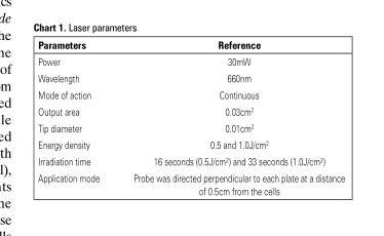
<table><thead><tr><td>Parameters</td><td>Reference</td></tr></thead><tbody><tr><td>Power</td><td>30mW</td></tr><tr><td>Wavelength</td><td>660nm</td></tr><tr><td>Mode of action</td><td>Continuous</td></tr><tr><td>Output area</td><td>0.03cm<sup>2</sup></td></tr><tr><td>Tip diameter</td><td>0.01cm<sup>2</sup></td></tr><tr><td>Energy density</td><td>0.5 and 1.0J/cm<sup>2</sup></td></tr><tr><td>Irradiation time</td><td>16 seconds (0.5J/cm²) and 33 seconds (1.0J/cm²)</td></tr><tr><td>Application mode</td><td>Probe was directed perpendicular to each plate at a distance of 0.5cm from the cells</td></tr></tbody></table>